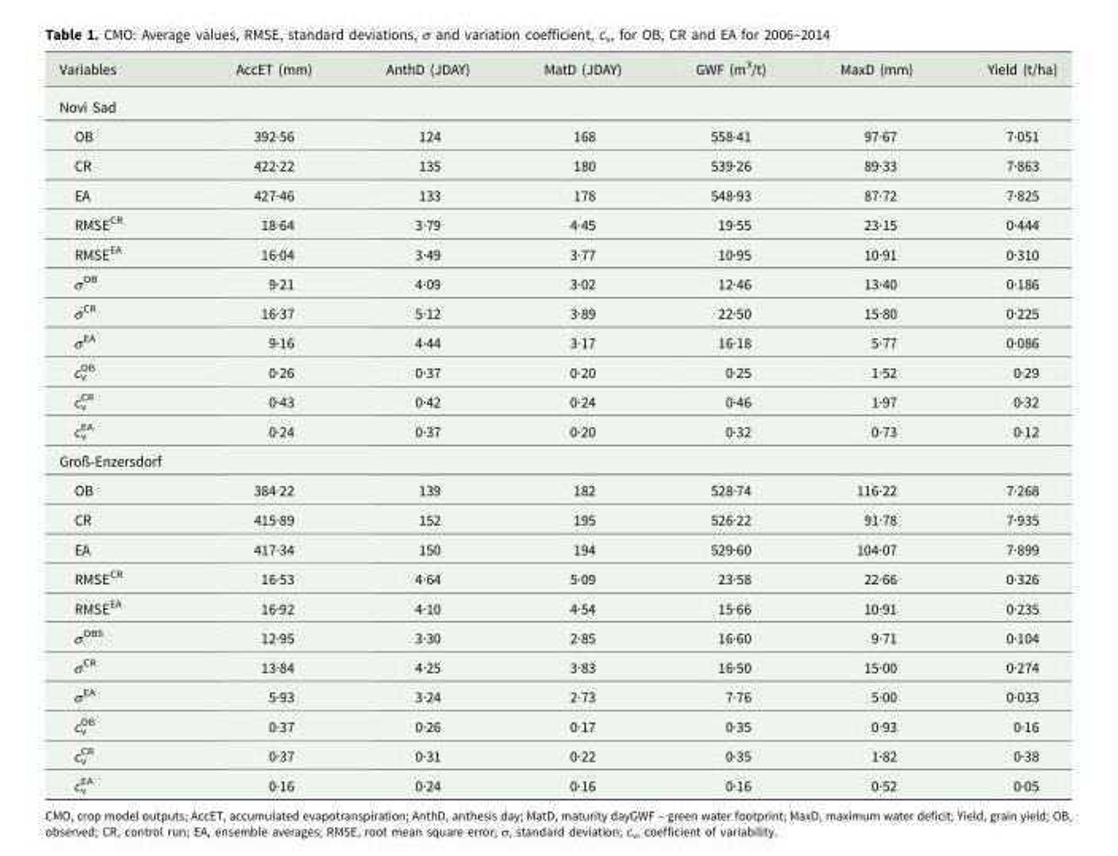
<table><thead><tr><td>Variables</td><td>AccET (mm)</td><td>AnthD (JDAY)</td><td>MatD (JDAY)</td><td>GWF (m<sup>3</sup>/t)</td><td>MaxD (mm)</td><td>Yield (t/ha)</td></tr></thead><tbody><tr><td colspan="7">Novi Sad</td></tr><tr><td>OB</td><td>392·56</td><td>124</td><td>168</td><td>558·41</td><td>97·67</td><td>7·051</td></tr><tr><td>CR</td><td>422·22</td><td>135</td><td>180</td><td>539·26</td><td>89·33</td><td>7·863</td></tr><tr><td>EA</td><td>427·46</td><td>133</td><td>178</td><td>548·93</td><td>87·72</td><td>7·825</td></tr><tr><td>RMSE<sup>CR</sup></td><td>18·64</td><td>3·79</td><td>4·45</td><td>19·55</td><td>23·15</td><td>0·444</td></tr><tr><td>RMSE<sup>EA</sup></td><td>16·04</td><td>3·49</td><td>3·77</td><td>10·95</td><td>10·91</td><td>0·310</td></tr><tr><td>σ<sup>OB</sup></td><td>9·21</td><td>4·09</td><td>3·02</td><td>12·46</td><td>13·40</td><td>0·186</td></tr><tr><td>σ<sup>CR</sup></td><td>16·37</td><td>5·12</td><td>3·89</td><td>22·50</td><td>15·80</td><td>0·225</td></tr><tr><td>σ<sup>EA</sup></td><td>9·16</td><td>4·44</td><td>3·17</td><td>16·18</td><td>5·77</td><td>0·086</td></tr><tr><td>c<sub>v</sub> <sup>OB</sup></td><td>0·26</td><td>0·37</td><td>0·20</td><td>0·25</td><td>1·52</td><td>0·29</td></tr><tr><td>c<sub>v</sub> <sup>CR</sup></td><td>0·43</td><td>0·42</td><td>0·24</td><td>0·46</td><td>1·97</td><td>0·32</td></tr><tr><td>c<sub>v</sub> <sup>EA</sup></td><td>0·24</td><td>0·37</td><td>0·20</td><td>0·32</td><td>0·73</td><td>0·12</td></tr><tr><td colspan="7">Groß-Enzersdorf</td></tr><tr><td>OB</td><td>384·22</td><td>139</td><td>182</td><td>528·74</td><td>116·22</td><td>7·268</td></tr><tr><td>CR</td><td>415·89</td><td>152</td><td>195</td><td>526·22</td><td>91·78</td><td>7·935</td></tr><tr><td>EA</td><td>417·34</td><td>150</td><td>194</td><td>529·60</td><td>104·07</td><td>7·899</td></tr><tr><td>RMSE<sup>CR</sup></td><td>16·53</td><td>4·64</td><td>5·09</td><td>23·58</td><td>22·66</td><td>0·326</td></tr><tr><td>RMSE<sup>EA</sup></td><td>16·92</td><td>4·10</td><td>4·54</td><td>15·66</td><td>10·91</td><td>0·235</td></tr><tr><td>σ<sup>OBS</sup></td><td>12·95</td><td>3·30</td><td>2·85</td><td>16·60</td><td>9·71</td><td>0·104</td></tr><tr><td>σ<sup>CR</sup></td><td>13·84</td><td>4·25</td><td>3·83</td><td>16·50</td><td>15·00</td><td>0·274</td></tr><tr><td>σ<sup>EA</sup></td><td>5·93</td><td>3·24</td><td>2·73</td><td>7·76</td><td>5·00</td><td>0·033</td></tr><tr><td>c<sub>v</sub> <sup>OB</sup></td><td>0·37</td><td>0·26</td><td>0·17</td><td>0·35</td><td>0·93</td><td>0·16</td></tr><tr><td>c<sub>v</sub> <sup>CR</sup></td><td>0·37</td><td>0·31</td><td>0·22</td><td>0·35</td><td>1·82</td><td>0·38</td></tr><tr><td>c<sub>v</sub> <sup>EA</sup></td><td>0·16</td><td>0·24</td><td>0·16</td><td>0·16</td><td>0·52</td><td>0·05</td></tr></tbody></table>